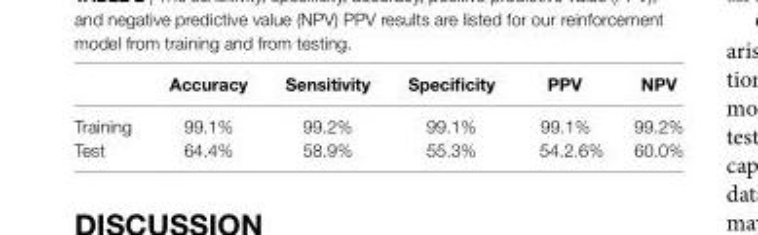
<table><thead><tr><td></td><td>accuracy</td><td>sensitivity</td><td>specificity</td><td>PPV</td><td>nPV</td></tr></thead><tbody><tr><td>Training</td><td>99.1%</td><td>99.2%</td><td>99.1%</td><td>99.1%</td><td>99.2%</td></tr><tr><td>Test</td><td>64.4%</td><td>58.9%</td><td>55.3%</td><td>54.2.6%</td><td>60.0%</td></tr></tbody></table>